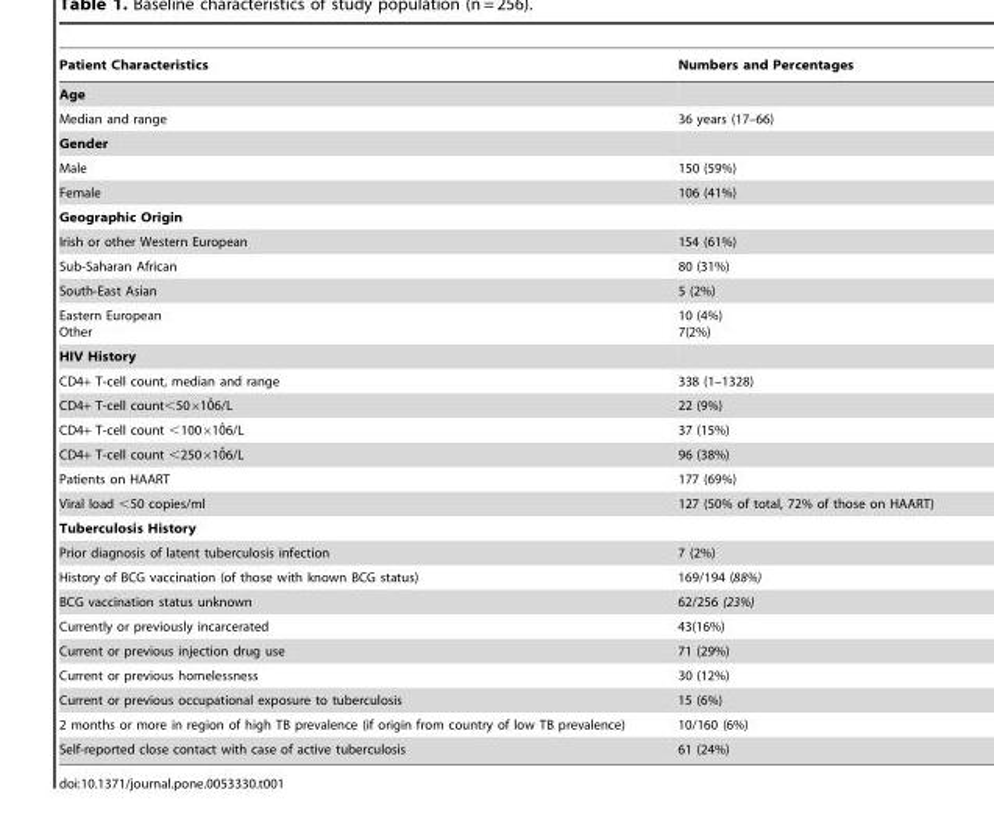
<table><thead><tr><td>Patient Characteristics</td><td>Numbers and Percentages</td></tr></thead><tbody><tr><td colspan="2">Age</td></tr><tr><td>Median and range</td><td>36 years (17–66)</td></tr><tr><td colspan="2">Gender</td></tr><tr><td>Male</td><td>150 (59%)</td></tr><tr><td>Female</td><td>106 (41%)</td></tr><tr><td colspan="2">Geographic Origin</td></tr><tr><td>Irish or other Western European</td><td>154 (61%)</td></tr><tr><td>Sub-Saharan African</td><td>80 (31%)</td></tr><tr><td>South-East Asian</td><td>5 (2%)</td></tr><tr><td>Eastern European Other</td><td>10 (4%) 7(2%)</td></tr><tr><td colspan="2">HIV History</td></tr><tr><td>CD4+ T-cell count, median and range</td><td>338 (1–1328)</td></tr><tr><td>CD4+ T-cell count,50610ˆ6/L</td><td>22 (9%)</td></tr><tr><td>CD4+ T-cell count ,100610ˆ6/L</td><td>37 (15%)</td></tr><tr><td>CD4+ T-cell count ,250610ˆ6/L</td><td>96 (38%)</td></tr><tr><td>Patients on HAART</td><td>177 (69%)</td></tr><tr><td>Viral load &lt;50 copies/ml</td><td>127 (50% of total, 72% of those on HAART)</td></tr><tr><td colspan="2">Tuberculosis History</td></tr><tr><td>Prior diagnosis of latent tuberculosis infection</td><td>7 (2%)</td></tr><tr><td>History of BCG vaccination (of those with known BCG status)</td><td>169/194 (88%)</td></tr><tr><td>BCG vaccination status unknown</td><td>62/256 (23%)</td></tr><tr><td>Currently or previously incarcerated</td><td>43(16%)</td></tr><tr><td>Current or previous injection drug use</td><td>71 (29%)</td></tr><tr><td>Current or previous homelessness</td><td>30 (12%)</td></tr><tr><td>Current or previous occupational exposure to tuberculosis</td><td>15 (6%)</td></tr><tr><td>2 months or more in region of high TB prevalence (if origin from country of low TB prevalence)</td><td>10/160 (6%)</td></tr><tr><td>Self-reported close contact with case of active tuberculosis</td><td>61 (24%)</td></tr></tbody></table>